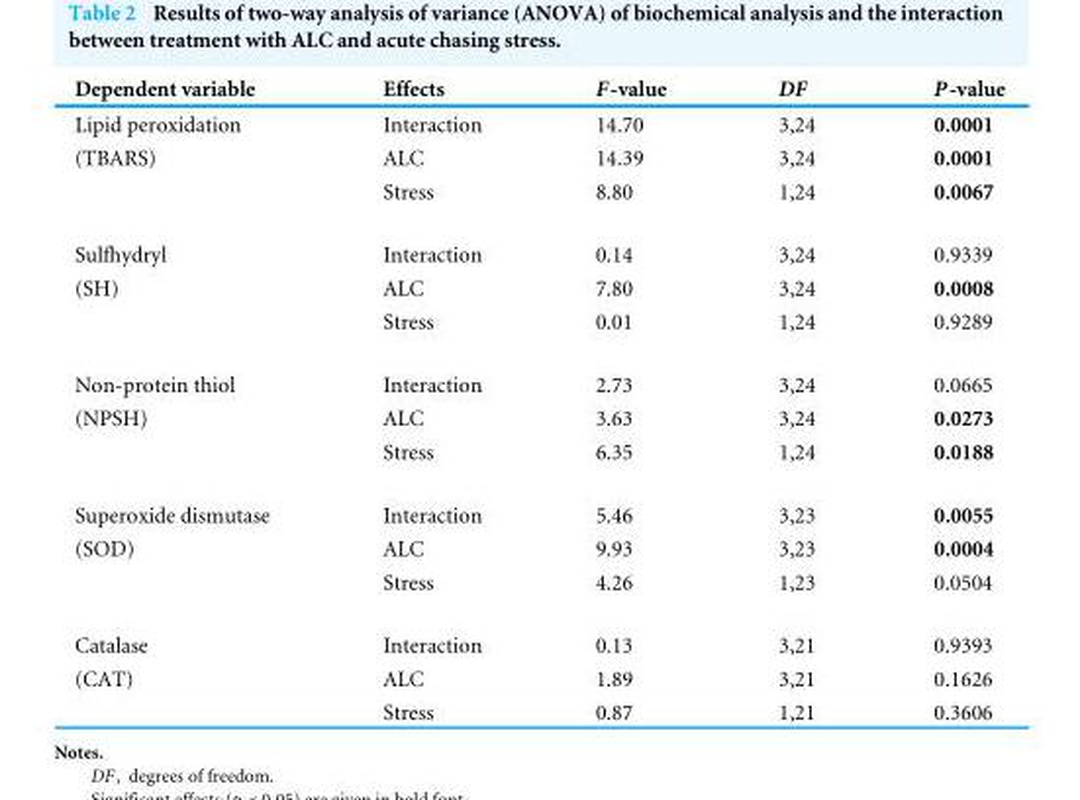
<table><thead><tr><td>Dependent variable</td><td>Effects</td><td>F-value</td><td>DF</td><td>P-value</td></tr></thead><tbody><tr><td>Lipid peroxidation</td><td>Interaction</td><td>14.70</td><td>3,24</td><td>0.0001</td></tr><tr><td rowspan="2">(TBARS)</td><td>ALC</td><td>14.39</td><td>3,24</td><td>0.0001</td></tr><tr><td>Stress</td><td>8.80</td><td>1,24</td><td>0.0067</td></tr><tr><td>Sulfhydryl</td><td>Interaction</td><td>0.14</td><td>3,24</td><td>0.9339</td></tr><tr><td rowspan="2">(SH)</td><td>ALC</td><td>7.80</td><td>3,24</td><td>0.0008</td></tr><tr><td>Stress</td><td>0.01</td><td>1,24</td><td>0.9289</td></tr><tr><td>Non-protein thiol</td><td>Interaction</td><td>2.73</td><td>3,24</td><td>0.0665</td></tr><tr><td rowspan="2">(NPSH)</td><td>ALC</td><td>3.63</td><td>3,24</td><td>0.0273</td></tr><tr><td>Stress</td><td>6.35</td><td>1,24</td><td>0.0188</td></tr><tr><td>Superoxide dismutase</td><td>Interaction</td><td>5.46</td><td>3,23</td><td>0.0055</td></tr><tr><td rowspan="2">(SOD)</td><td>ALC</td><td>9.93</td><td>3,23</td><td>0.0004</td></tr><tr><td>Stress</td><td>4.26</td><td>1,23</td><td>0.0504</td></tr><tr><td>Catalase</td><td>Interaction</td><td>0.13</td><td>3,21</td><td>0.9393</td></tr><tr><td rowspan="2">(CAT)</td><td>ALC</td><td>1.89</td><td>3,21</td><td>0.1626</td></tr><tr><td>Stress</td><td>0.87</td><td>1,21</td><td>0.3606</td></tr></tbody></table>